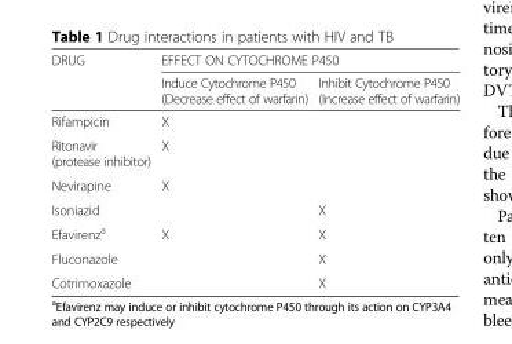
<table><thead><tr><td rowspan="2">DRUG</td><td colspan="2">EFFECT ON CYTOCHROME P450</td></tr><tr><td>Induce Cytochrome P450 (Decrease effect of warfarin)</td><td>Inhibit Cytochrome P450 (Increase effect of warfarin)</td></tr></thead><tbody><tr><td>Rifampicin</td><td>X</td><td></td></tr><tr><td>Ritonavir (protease inhibitor)</td><td>X</td><td></td></tr><tr><td>Nevirapine</td><td>X</td><td></td></tr><tr><td>Isoniazid</td><td></td><td>X</td></tr><tr><td>Efavirenz<sup>a</sup></td><td>X</td><td>X</td></tr><tr><td>Fluconazole</td><td></td><td>X</td></tr><tr><td>Cotrimoxazole</td><td></td><td>X</td></tr></tbody></table>